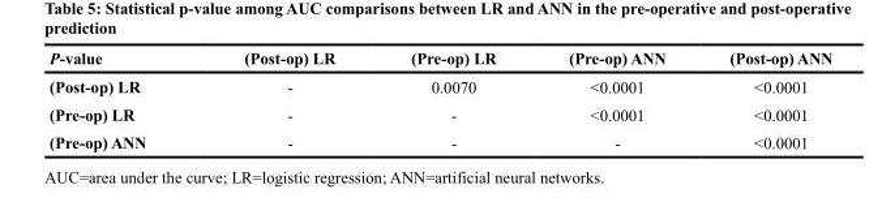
<table><thead><tr><td>P-value</td><td>(Post-op) LR</td><td>(Pre-op) LR</td><td>(Pre-op) ANN</td><td>(Post-op) ANN</td></tr></thead><tbody><tr><td>(Post-op) LR</td><td>-</td><td>0.0070</td><td>&lt;0.0001</td><td>&lt;0.0001</td></tr><tr><td>(Pre-op) LR</td><td>-</td><td>-</td><td>&lt;0.0001</td><td>&lt;0.0001</td></tr><tr><td>(Pre-op) ANN</td><td>-</td><td>-</td><td>-</td><td>&lt;0.0001</td></tr></tbody></table>